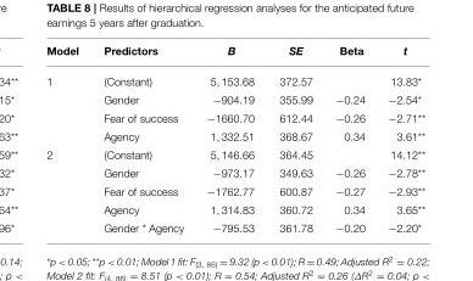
<table><thead><tr><td>Model</td><td>Predictors</td><td>B</td><td>SE</td><td>Beta</td><td>t</td></tr></thead><tbody><tr><td rowspan="4">1</td><td>(Constant)</td><td>5, 153.68</td><td>372.57</td><td></td><td>13.83*</td></tr><tr><td>Gender</td><td>−904.19</td><td>355.99</td><td>−0.24</td><td>−2.54*</td></tr><tr><td>Fear of success</td><td>−1660.70</td><td>612.44</td><td>−0.26</td><td>−2.71**</td></tr><tr><td>Agency</td><td>1, 332.51</td><td>368.67</td><td>0.34</td><td>3.61**</td></tr><tr><td rowspan="5">2</td><td>(Constant)</td><td>5, 146.66</td><td>364.45</td><td></td><td>14.12**</td></tr><tr><td>Gender</td><td>−973.17</td><td>349.63</td><td>−0.26</td><td>−2.78**</td></tr><tr><td>Fear of success</td><td>−1762.77</td><td>600.87</td><td>−0.27</td><td>−2.93**</td></tr><tr><td>Agency</td><td>1, 314.83</td><td>360.72</td><td>0.34</td><td>3.65**</td></tr><tr><td>Gender * Agency</td><td>−795.53</td><td>361.78</td><td>−0.20</td><td>−2.20*</td></tr></tbody></table>